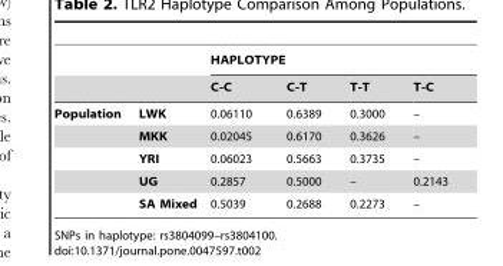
<table><thead><tr><td rowspan="2"></td><td rowspan="2"></td><td colspan="4">HAPLOTYPE</td></tr><tr><td>C-C</td><td>C-T</td><td>T-T</td><td>T-C</td></tr></thead><tbody><tr><td rowspan="5">Population</td><td>LWK</td><td>0.06110</td><td>0.6389</td><td>0.3000</td><td>–</td></tr><tr><td>MKK</td><td>0.02045</td><td>0.6170</td><td>0.3626</td><td>–</td></tr><tr><td>YRI</td><td>0.06023</td><td>0.5663</td><td>0.3735</td><td>–</td></tr><tr><td>UG</td><td>0.2857</td><td>0.5000</td><td>–</td><td>0.2143</td></tr><tr><td>SA Mixed</td><td>0.5039</td><td>0.2688</td><td>0.2273</td><td>–</td></tr></tbody></table>